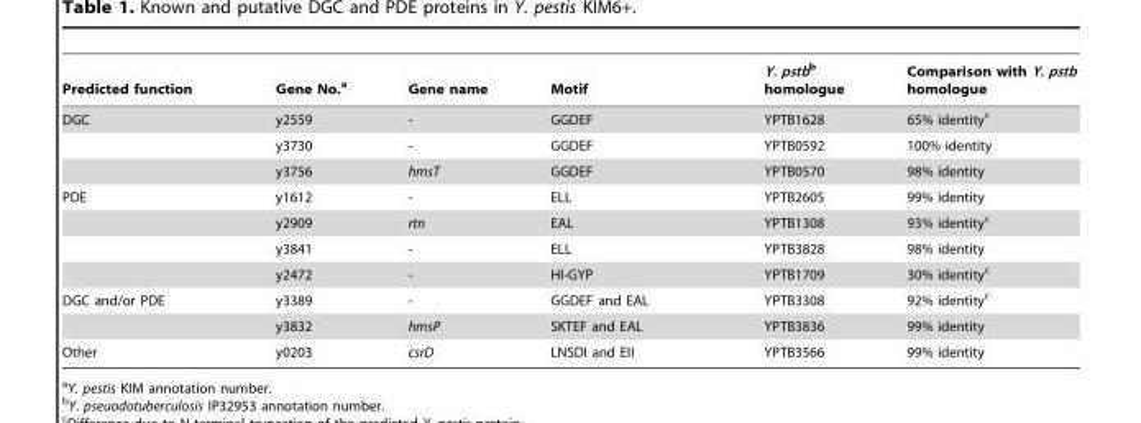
<table><thead><tr><td>Predicted function</td><td>Gene No.<sup>a</sup></td><td>Gene name</td><td>Motif</td><td>Y. pstbb homologue</td><td>Comparison with Y. pstb homologue</td></tr></thead><tbody><tr><td rowspan="3">DGC</td><td>y2559</td><td>-</td><td>GGDEF</td><td>YPTB1628</td><td>65% identity<sup>c</sup></td></tr><tr><td>y3730</td><td>-</td><td>GGDEF</td><td>YPTB0592</td><td>100% identity</td></tr><tr><td>y3756</td><td>hmsT</td><td>GGDEF</td><td>YPTB0570</td><td>98% identity</td></tr><tr><td rowspan="4">PDE</td><td>y1612</td><td>-</td><td>ELL</td><td>YPTB2605</td><td>99% identity</td></tr><tr><td>y2909</td><td>rtn</td><td>EAL</td><td>YPTB1308</td><td>93% identity<sup>c</sup></td></tr><tr><td>y3841</td><td>-</td><td>ELL</td><td>YPTB3828</td><td>98% identity</td></tr><tr><td>y2472</td><td>-</td><td>HI-GYP</td><td>YPTB1709</td><td>30% identity<sup>c</sup></td></tr><tr><td rowspan="2">DGC and/or PDE</td><td>y3389</td><td>-</td><td>GGDEF and EAL</td><td>YPTB3308</td><td>92% identity<sup>c</sup></td></tr><tr><td>y3832</td><td>hmsP</td><td>SKTEF and EAL</td><td>YPTB3836</td><td>99% identity</td></tr><tr><td>Other</td><td>y0203</td><td>csrD</td><td>LNSDI and EII</td><td>YPTB3566</td><td>99% identity</td></tr></tbody></table>